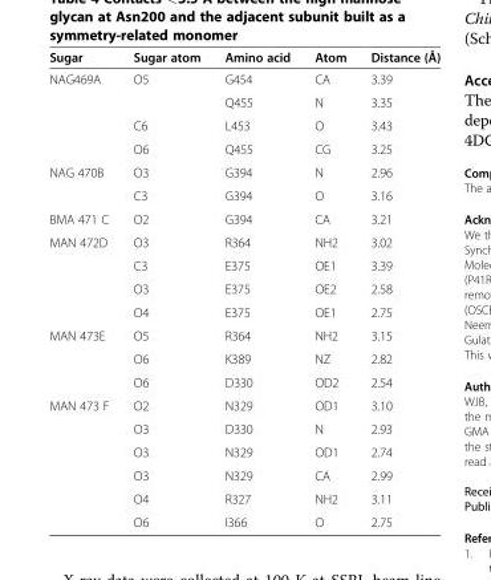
<table><thead><tr><td>Sugar</td><td>Sugar atom</td><td>Amino acid</td><td>Atom</td><td>Distance (Å)</td></tr></thead><tbody><tr><td rowspan="4">NAG469A</td><td>O5</td><td>G454</td><td>CA</td><td>3.39</td></tr><tr><td></td><td>Q455</td><td>N</td><td>3.35</td></tr><tr><td>C6</td><td>L453</td><td>O</td><td>3.43</td></tr><tr><td>O6</td><td>Q455</td><td>CG</td><td>3.25</td></tr><tr><td rowspan="2">NAG 470B</td><td>O3</td><td>G394</td><td>N</td><td>2.96</td></tr><tr><td>C3</td><td>G394</td><td>O</td><td>3.16</td></tr><tr><td>BMA 471 C</td><td>O2</td><td>G394</td><td>CA</td><td>3.21</td></tr><tr><td rowspan="4">MAN 472D</td><td>O3</td><td>R364</td><td>NH2</td><td>3.02</td></tr><tr><td>C3</td><td>E375</td><td>OE1</td><td>3.39</td></tr><tr><td>O3</td><td>E375</td><td>OE2</td><td>2.58</td></tr><tr><td>O4</td><td>E375</td><td>OE1</td><td>2.75</td></tr><tr><td rowspan="3">MAN 473E</td><td>O5</td><td>R364</td><td>NH2</td><td>3.15</td></tr><tr><td>O6</td><td>K389</td><td>NZ</td><td>2.82</td></tr><tr><td>O6</td><td>D330</td><td>OD2</td><td>2.54</td></tr><tr><td rowspan="6">MAN 473 F</td><td>O2</td><td>N329</td><td>OD1</td><td>3.10</td></tr><tr><td>O3</td><td>D330</td><td>N</td><td>2.93</td></tr><tr><td>O3</td><td>N329</td><td>OD1</td><td>2.74</td></tr><tr><td>O3</td><td>N329</td><td>CA</td><td>2.99</td></tr><tr><td>O4</td><td>R327</td><td>NH2</td><td>3.11</td></tr><tr><td>O6</td><td>I366</td><td>O</td><td>2.75</td></tr></tbody></table>